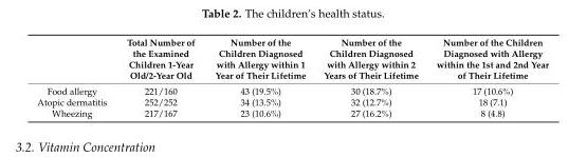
<table><thead><tr><td></td><td>Total Number of the Examined Children 1-Year Old/2-Year Old</td><td>Number of the Children Diagnosed with Allergy within 1 Year of Their Lifetime</td><td>Number of the Children Diagnosed with Allergy within 2 Years of Their Lifetime</td><td>Number of the Children Diagnosed with Allergy within the 1st and 2nd Year of Their Lifetime</td></tr></thead><tbody><tr><td>Food allergy</td><td>221/160</td><td>43 (19.5%)</td><td>30 (18.7%)</td><td>17 (10.6%)</td></tr><tr><td>Atopic dermatitis</td><td>252/252</td><td>34 (13.5%)</td><td>32 (12.7%)</td><td>18 (7.1)</td></tr><tr><td>Wheezing</td><td>217/167</td><td>23 (10.6%)</td><td>27 (16.2%)</td><td>8 (4.8)</td></tr></tbody></table>